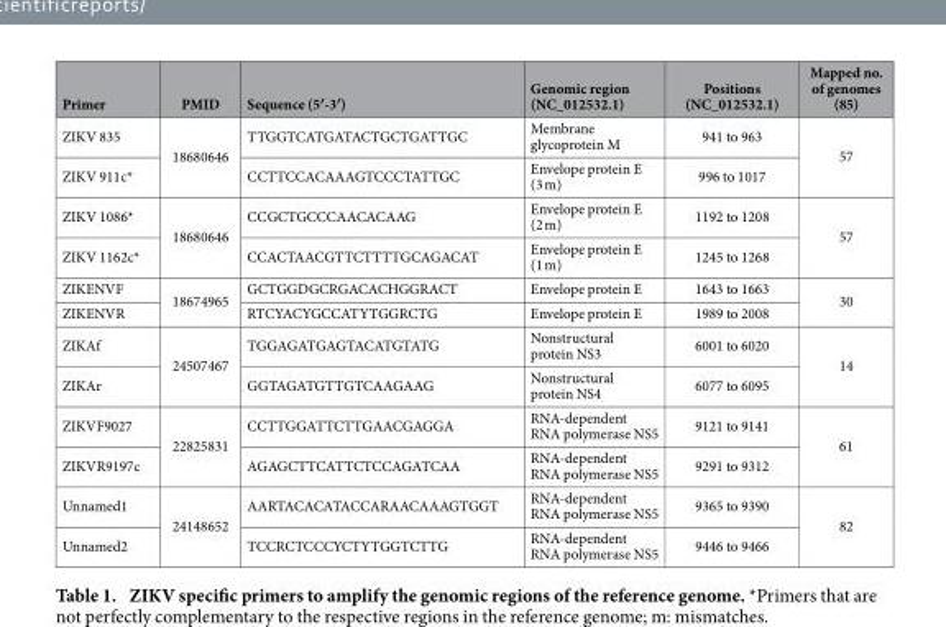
<table><thead><tr><td>Primer</td><td>PMID</td><td>Sequence (5′-3′)</td><td>Genomic region (NC_012532.1)</td><td>Positions (NC_012532.1)</td><td>Mapped no. of genomes (85)</td></tr></thead><tbody><tr><td>ZIKV 835</td><td rowspan="2">18680646</td><td>TTGGTCATGATACTGCTGATTGC</td><td>Membrane glycoprotein M</td><td>941 to 963</td><td rowspan="2">57</td></tr><tr><td>ZIKV 911c*</td><td>CCTTCCACAAAGTCCCTATTGC</td><td>Envelope protein E (3 m)</td><td>996 to 1017</td></tr><tr><td>ZIKV 1086*</td><td rowspan="2">18680646</td><td>CCGCTGCCCAACACAAG</td><td>Envelope protein E (2 m)</td><td>1192 to 1208</td><td rowspan="2">57</td></tr><tr><td>ZIKV 1162c*</td><td>CCACTAACGTTCTTTTGCAGACAT</td><td>Envelope protein E (1 m)</td><td>1245 to 1268</td></tr><tr><td>ZIKENVF</td><td rowspan="2">18674965</td><td>GCTGGDGCRGACACHGGRACT</td><td>Envelope protein E</td><td>1643 to 1663</td><td rowspan="2">30</td></tr><tr><td>ZIKENVR</td><td>RTCYACYGCCATYTGGRCTG</td><td>Envelope protein E</td><td>1989 to 2008</td></tr><tr><td>ZIKAf</td><td rowspan="2">24507467</td><td>TGGAGATGAGTACATGTATG</td><td>Nonstructural protein NS3</td><td>6001 to 6020</td><td rowspan="2">14</td></tr><tr><td>ZIKAr</td><td>GGTAGATGTTGTCAAGAAG</td><td>Nonstructural protein NS4</td><td>6077 to 6095</td></tr><tr><td>ZIKVF9027</td><td rowspan="2">22825831</td><td>CCTTGGATTCTTGAACGAGGA</td><td>RNA-dependent RNA polymerase NS5</td><td>9121 to 9141</td><td rowspan="2">61</td></tr><tr><td>ZIKVR9197c</td><td>AGAGCTTCATTCTCCAGATCAA</td><td>RNA-dependent RNA polymerase NS5</td><td>9291 to 9312</td></tr><tr><td>Unnamed1</td><td rowspan="2">24148652</td><td>AARTACACATACCARAACAAAGTGGT</td><td>RNA-dependent RNA polymerase NS5</td><td>9365 to 9390</td><td rowspan="2">82</td></tr><tr><td>Unnamed2</td><td>TCCRCTCCCYCTYTGGTCTTG</td><td>RNA-dependent RNA polymerase NS5</td><td>9446 to 9466</td></tr></tbody></table>